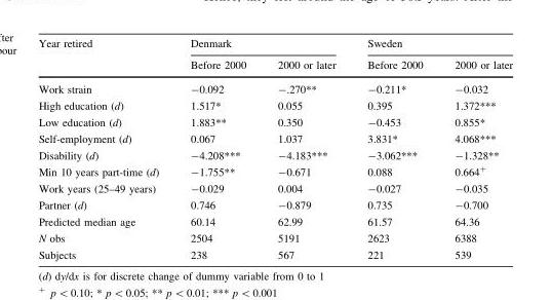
<table><thead><tr><td rowspan="2">Year retired</td><td colspan="2">Denmark</td><td colspan="2">Sweden</td></tr><tr><td>Before 2000</td><td>2000 or later</td><td>Before 2000</td><td>2000 or later</td></tr></thead><tbody><tr><td>Work strain</td><td>-0.092</td><td>-.270**</td><td>-0.211*</td><td>-0.032</td></tr><tr><td>High education (d)</td><td>1.517*</td><td>0.055</td><td>0.395</td><td>1.372***</td></tr><tr><td>Low education (d)</td><td>1.883**</td><td>0.350</td><td>-0.453</td><td>0.855*</td></tr><tr><td>Self-employment (d)</td><td>0.067</td><td>1.037</td><td>3.831*</td><td>4.068***</td></tr><tr><td>Disability (d)</td><td>-4.208***</td><td>-4.183***</td><td>-3.062***</td><td>-1.328**</td></tr><tr><td>Min 10 years part-time (d)</td><td>-1.755**</td><td>-0.671</td><td>0.088</td><td>0.664<sup>+</sup></td></tr><tr><td>Work years (25–49 years)</td><td>-0.029</td><td>0.004</td><td>-0.027</td><td>-0.035</td></tr><tr><td>Partner (d)</td><td>0.746</td><td>-0.879</td><td>0.735</td><td>-0.700</td></tr><tr><td>Predicted median age</td><td>60.14</td><td>62.99</td><td>61.57</td><td>64.36</td></tr><tr><td>N obs</td><td>2504</td><td>5191</td><td>2623</td><td>6388</td></tr><tr><td>Subjects</td><td>238</td><td>567</td><td>221</td><td>539</td></tr></tbody></table>